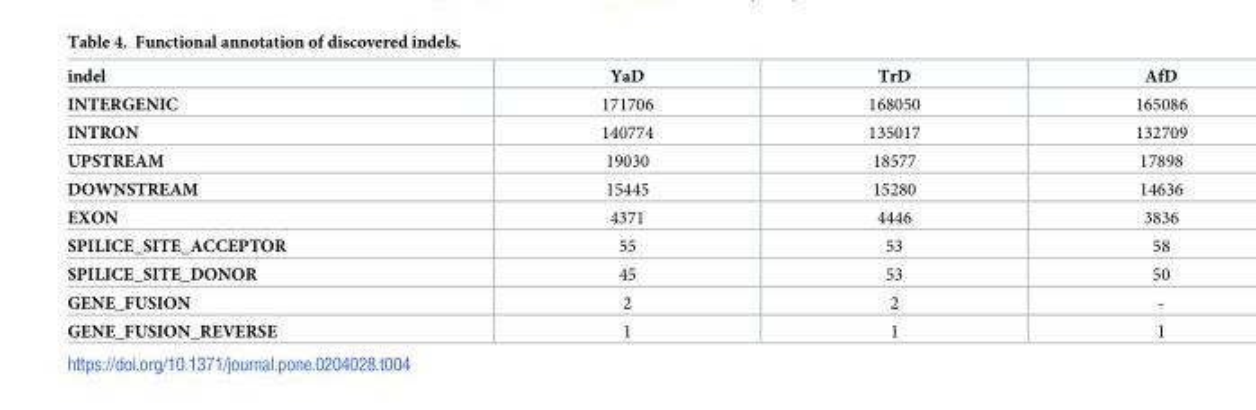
<table><thead><tr><td>indel</td><td>YaD</td><td>TrD</td><td>AfD</td></tr></thead><tbody><tr><td>INTERGENIC</td><td>171706</td><td>168050</td><td>165086</td></tr><tr><td>INTRON</td><td>140774</td><td>135017</td><td>132709</td></tr><tr><td>UPSTREAM</td><td>19030</td><td>18577</td><td>17898</td></tr><tr><td>DOWNSTREAM</td><td>15445</td><td>15280</td><td>14636</td></tr><tr><td>EXON</td><td>4371</td><td>4446</td><td>3836</td></tr><tr><td>SPILICE_SITE_ACCEPTOR</td><td>55</td><td>53</td><td>58</td></tr><tr><td>SPILICE_SITE_DONOR</td><td>45</td><td>53</td><td>50</td></tr><tr><td>GENE_FUSION</td><td>2</td><td>2</td><td>-</td></tr><tr><td>GENE_FUSION_REVERSE</td><td>1</td><td>1</td><td>1</td></tr></tbody></table>